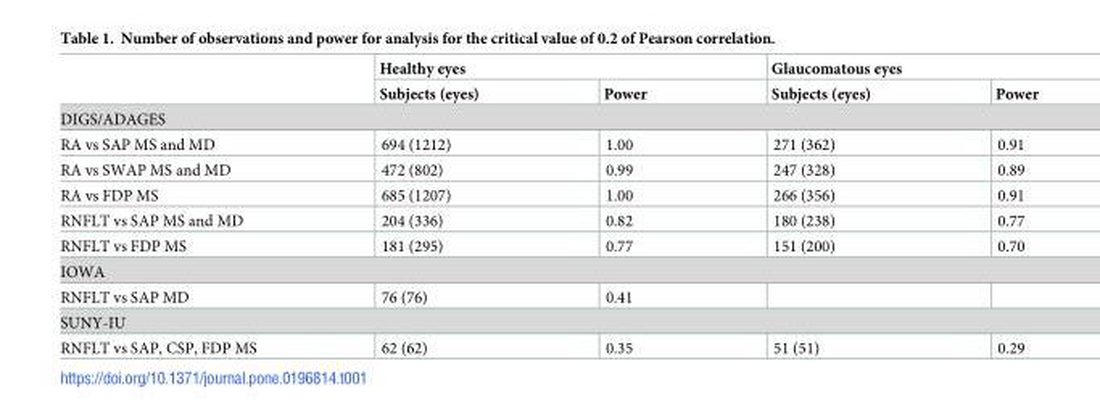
<table><thead><tr><td rowspan="2"></td><td colspan="2">Healthy eyes</td><td colspan="2">Glaucomatous eyes</td></tr><tr><td>Subjects (eyes)</td><td>Power</td><td>Subjects (eyes)</td><td>Power</td></tr></thead><tbody><tr><td colspan="5">DIGS/ADAGES</td></tr><tr><td>RA vs SAP MS and MD</td><td>694 (1212)</td><td>1.00</td><td>271 (362)</td><td>0.91</td></tr><tr><td>RA vs SWAP MS and MD</td><td>472 (802)</td><td>0.99</td><td>247 (328)</td><td>0.89</td></tr><tr><td>RA vs FDP MS</td><td>685 (1207)</td><td>1.00</td><td>266 (356)</td><td>0.91</td></tr><tr><td>RNFLT vs SAP MS and MD</td><td>204 (336)</td><td>0.82</td><td>180 (238)</td><td>0.77</td></tr><tr><td>RNFLT vs FDP MS</td><td>181 (295)</td><td>0.77</td><td>151 (200)</td><td>0.70</td></tr><tr><td colspan="5">IOWA</td></tr><tr><td>RNFLT vs SAP MD</td><td>76 (76)</td><td>0.41</td><td></td><td></td></tr><tr><td colspan="5">SUNY-IU</td></tr><tr><td>RNFLT vs SAP, CSP, FDP MS</td><td>62 (62)</td><td>0.35</td><td>51 (51)</td><td>0.29</td></tr></tbody></table>